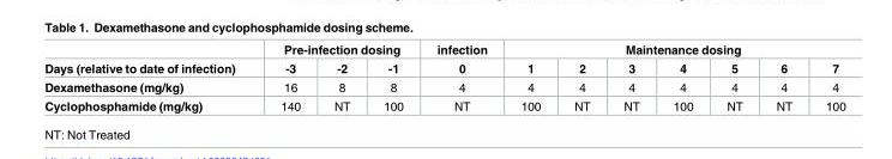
<table><thead><tr><td rowspan="2">Days (relative to date of infection)</td><td colspan="3">Pre-infection dosing</td><td rowspan="2">infection 0</td><td colspan="7">Maintenance dosing</td></tr><tr><td>-3</td><td>-2</td><td>-1</td><td>1</td><td>2</td><td>3</td><td>4</td><td>5</td><td>6</td><td>7</td></tr></thead><tbody><tr><td>Dexamethasone (mg/kg)</td><td>16</td><td>8</td><td>8</td><td>4</td><td>4</td><td>4</td><td>4</td><td>4</td><td>4</td><td>4</td><td>4</td></tr><tr><td>Cyclophosphamide (mg/kg)</td><td>140</td><td>NT</td><td>100</td><td>NT</td><td>100</td><td>NT</td><td>NT</td><td>100</td><td>NT</td><td>NT</td><td>100</td></tr></tbody></table>